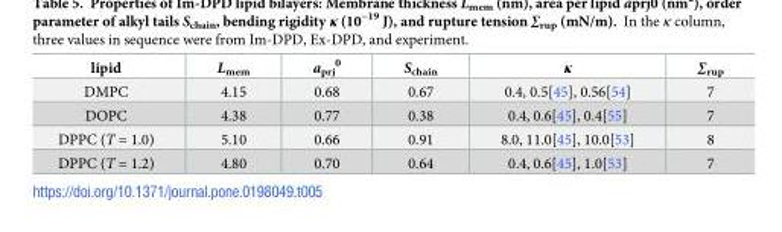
<table><thead><tr><td>lipid</td><td>L<sub>mem</sub></td><td>a<sub>prj</sub> <sup>0</sup></td><td>S<sub>chain</sub></td><td>κ</td><td>∑<sub>rup</sub></td></tr></thead><tbody><tr><td>DMPC</td><td>4.15</td><td>0.68</td><td>0.67</td><td>0.4, 0.5[45], 0.56[54]</td><td>7</td></tr><tr><td>DOPC</td><td>4.38</td><td>0.77</td><td>0.38</td><td>0.4, 0.6[45], 0.4[55]</td><td>7</td></tr><tr><td>DPPC (T = 1.0)</td><td>5.10</td><td>0.66</td><td>0.91</td><td>8.0, 11.0[45], 10.0[53]</td><td>8</td></tr><tr><td>DPPC (T = 1.2)</td><td>4.80</td><td>0.70</td><td>0.64</td><td>0.4, 0.6[45], 1.0[53]</td><td>7</td></tr></tbody></table>